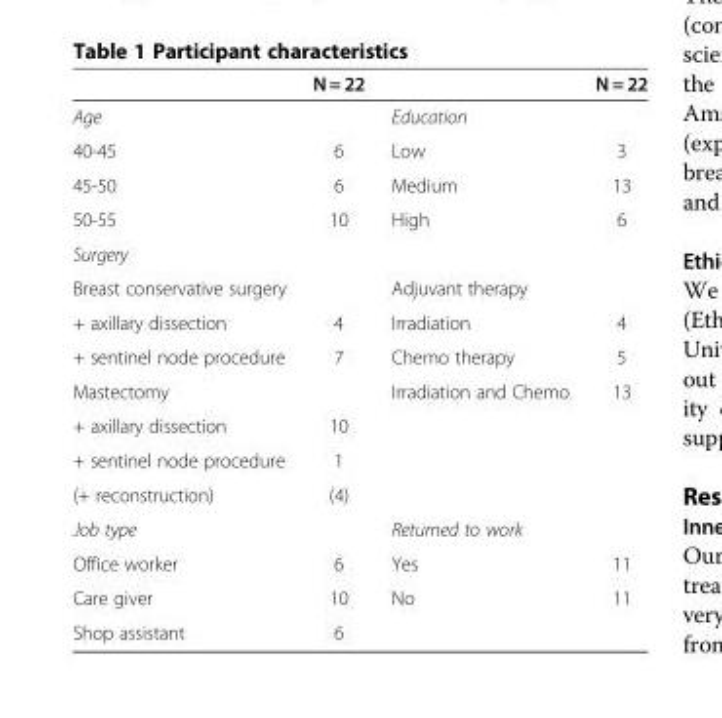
<table><thead><tr><td></td><td>N = 22</td><td></td><td>N = 22</td></tr></thead><tbody><tr><td>Age</td><td></td><td>Education</td><td></td></tr><tr><td>40-45</td><td>6</td><td>Low</td><td>3</td></tr><tr><td>45-50</td><td>6</td><td>Medium</td><td>13</td></tr><tr><td>50-55</td><td>10</td><td>High</td><td>6</td></tr><tr><td colspan="4">Surgery</td></tr><tr><td>Breast conservative surgery</td><td></td><td>Adjuvant therapy</td><td></td></tr><tr><td>+ axillary dissection</td><td>4</td><td>Irradiation</td><td>4</td></tr><tr><td>+ sentinel node procedure</td><td>7</td><td>Chemo therapy</td><td>5</td></tr><tr><td>Mastectomy</td><td></td><td>Irradiation and Chemo</td><td>13</td></tr><tr><td>+ axillary dissection</td><td>10</td><td></td><td></td></tr><tr><td>+ sentinel node procedure</td><td>1</td><td></td><td></td></tr><tr><td>(+ reconstruction)</td><td>(4)</td><td></td><td></td></tr><tr><td>Job type</td><td></td><td>Returned to work</td><td></td></tr><tr><td>Office worker</td><td>6</td><td>Yes</td><td>11</td></tr><tr><td>Care giver</td><td>10</td><td>No</td><td>11</td></tr><tr><td>Shop assistant</td><td>6</td><td></td><td></td></tr></tbody></table>